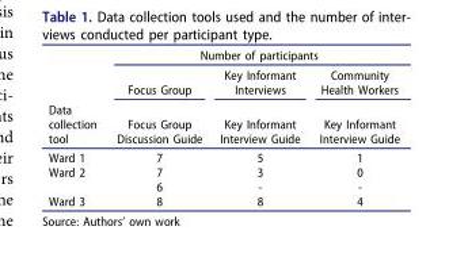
<table><thead><tr><td rowspan="3">Data collection tool</td><td colspan="3">Number of participants</td></tr><tr><td rowspan="2">Focus Group Focus Group Discussion Guide</td><td rowspan="2">Key Informant Interviews Key Informant Interview Guide</td><td rowspan="2">Community Health Workers Key Informant Interview Guide</td></tr><tr></tr></thead><tbody><tr><td>Ward 1</td><td>7</td><td>5</td><td>1</td></tr><tr><td rowspan="2">Ward 2</td><td>7</td><td>3</td><td>0</td></tr><tr><td>6</td><td>-</td><td>-</td></tr><tr><td>Ward 3</td><td>8</td><td>8</td><td>4</td></tr></tbody></table>